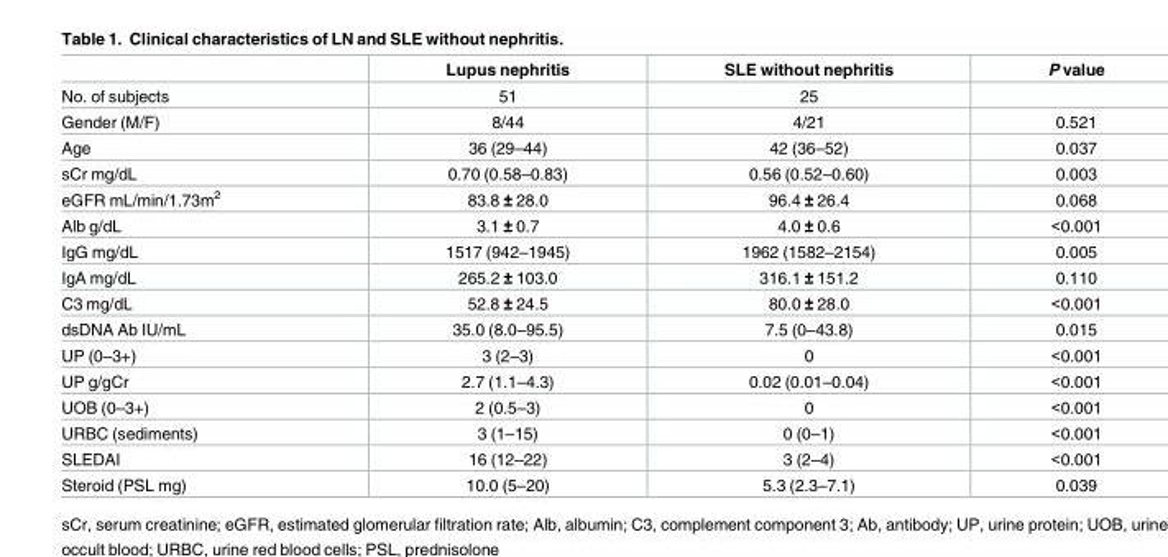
<table><thead><tr><td></td><td>Lupus nephritis</td><td>SLE without nephritis</td><td>P value</td></tr></thead><tbody><tr><td>No. of subjects</td><td>51</td><td>25</td><td></td></tr><tr><td>Gender (M/F)</td><td>8/44</td><td>4/21</td><td>0.521</td></tr><tr><td>Age</td><td>36 (29–44)</td><td>42 (36–52)</td><td>0.037</td></tr><tr><td>sCr mg/dL</td><td>0.70 (0.58–0.83)</td><td>0.56 (0.52–0.60)</td><td>0.003</td></tr><tr><td>eGFR mL/min/1.73m<sup>2</sup></td><td>83.8 ± 28.0</td><td>96.4 ± 26.4</td><td>0.068</td></tr><tr><td>Alb g/dL</td><td>3.1 ± 0.7</td><td>4.0 ± 0.6</td><td>&lt;0.001</td></tr><tr><td>IgG mg/dL</td><td>1517 (942–1945)</td><td>1962 (1582–2154)</td><td>0.005</td></tr><tr><td>IgA mg/dL</td><td>265.2 ± 103.0</td><td>316.1 ± 151.2</td><td>0.110</td></tr><tr><td>C3 mg/dL</td><td>52.8 ± 24.5</td><td>80.0 ± 28.0</td><td>&lt;0.001</td></tr><tr><td>dsDNA Ab IU/mL</td><td>35.0 (8.0–95.5)</td><td>7.5 (0–43.8)</td><td>0.015</td></tr><tr><td>UP (0–3+)</td><td>3 (2–3)</td><td>0</td><td>&lt;0.001</td></tr><tr><td>UP g/gCr</td><td>2.7 (1.1–4.3)</td><td>0.02 (0.01–0.04)</td><td>&lt;0.001</td></tr><tr><td>UOB (0–3+)</td><td>2 (0.5–3)</td><td>0</td><td>&lt;0.001</td></tr><tr><td>URBC (sediments)</td><td>3 (1–15)</td><td>0 (0–1)</td><td>&lt;0.001</td></tr><tr><td>SLEDAI</td><td>16 (12–22)</td><td>3 (2–4)</td><td>&lt;0.001</td></tr><tr><td>Steroid (PSL mg)</td><td>10.0 (5–20)</td><td>5.3 (2.3–7.1)</td><td>0.039</td></tr></tbody></table>